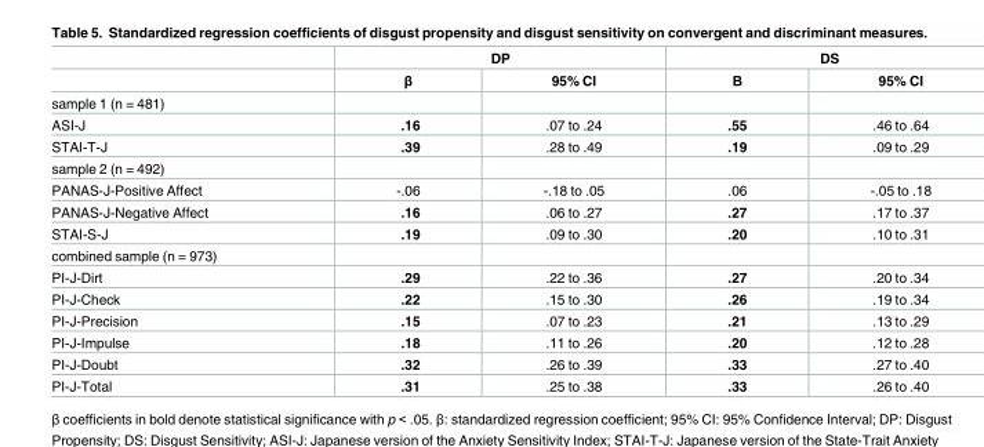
<table><thead><tr><td rowspan="2"></td><td colspan="2">DP</td><td colspan="2">DS</td></tr><tr><td>β</td><td>95% CI</td><td>Β</td><td>95% CI</td></tr></thead><tbody><tr><td colspan="5">sample 1 (n = 481)</td></tr><tr><td>ASI-J</td><td>.16</td><td>.07 to .24</td><td>.55</td><td>.46 to .64</td></tr><tr><td>STAI-T-J</td><td>.39</td><td>.28 to .49</td><td>.19</td><td>.09 to .29</td></tr><tr><td colspan="5">sample 2 (n = 492)</td></tr><tr><td>PANAS-J-Positive Affect</td><td>-.06</td><td>-.18 to .05</td><td>.06</td><td>-.05 to .18</td></tr><tr><td>PANAS-J-Negative Affect</td><td>.16</td><td>.06 to .27</td><td>.27</td><td>.17 to .37</td></tr><tr><td>STAI-S-J</td><td>.19</td><td>.09 to .30</td><td>.20</td><td>.10 to .31</td></tr><tr><td colspan="5">combined sample (n = 973)</td></tr><tr><td>PI-J-Dirt</td><td>.29</td><td>.22 to .36</td><td>.27</td><td>.20 to .34</td></tr><tr><td>PI-J-Check</td><td>.22</td><td>.15 to .30</td><td>.26</td><td>.19 to .34</td></tr><tr><td>PI-J-Precision</td><td>.15</td><td>.07 to .23</td><td>.21</td><td>.13 to .29</td></tr><tr><td>PI-J-Impulse</td><td>.18</td><td>.11 to .26</td><td>.20</td><td>.12 to .28</td></tr><tr><td>PI-J-Doubt</td><td>.32</td><td>.26 to .39</td><td>.33</td><td>.27 to .40</td></tr><tr><td>PI-J-Total</td><td>.31</td><td>.25 to .38</td><td>.33</td><td>.26 to .40</td></tr></tbody></table>